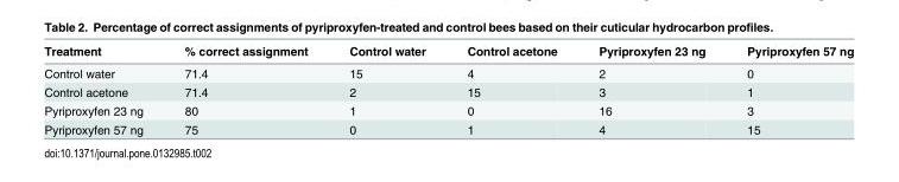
<table><thead><tr><td>Treatment</td><td>% correct assignment</td><td>Control water</td><td>Control acetone</td><td>Pyriproxyfen 23 ng</td><td>Pyriproxyfen 57 ng</td></tr></thead><tbody><tr><td>Control water</td><td>71.4</td><td>15</td><td>4</td><td>2</td><td>0</td></tr><tr><td>Control acetone</td><td>71.4</td><td>2</td><td>15</td><td>3</td><td>1</td></tr><tr><td>Pyriproxyfen 23 ng</td><td>80</td><td>1</td><td>0</td><td>16</td><td>3</td></tr><tr><td>Pyriproxyfen 57 ng</td><td>75</td><td>0</td><td>1</td><td>4</td><td>15</td></tr></tbody></table>